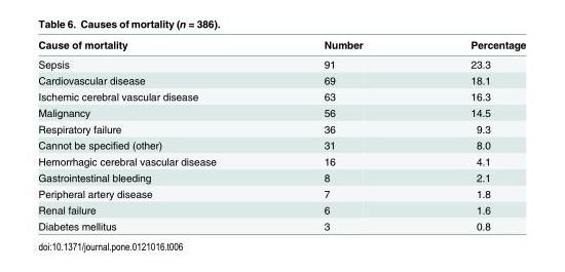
<table><thead><tr><td>Cause of mortality</td><td>Number</td><td>Percentage</td></tr></thead><tbody><tr><td>Sepsis</td><td>91</td><td>23.3</td></tr><tr><td>Cardiovascular disease</td><td>69</td><td>18.1</td></tr><tr><td>Ischemic cerebral vascular disease</td><td>63</td><td>16.3</td></tr><tr><td>Malignancy</td><td>56</td><td>14.5</td></tr><tr><td>Respiratory failure</td><td>36</td><td>9.3</td></tr><tr><td>Cannot be specified (other)</td><td>31</td><td>8.0</td></tr><tr><td>Hemorrhagic cerebral vascular disease</td><td>16</td><td>4.1</td></tr><tr><td>Gastrointestinal bleeding</td><td>8</td><td>2.1</td></tr><tr><td>Peripheral artery disease</td><td>7</td><td>1.8</td></tr><tr><td>Renal failure</td><td>6</td><td>1.6</td></tr><tr><td>Diabetes mellitus</td><td>3</td><td>0.8</td></tr></tbody></table>